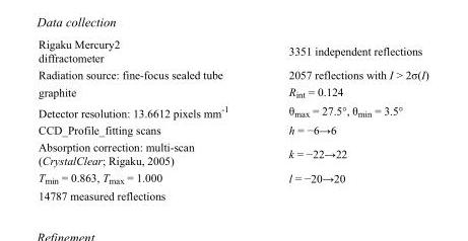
<table><tbody><tr><td>Rigaku Mercury2 diffractometer</td><td>3351 independent reflections</td></tr><tr><td>Radiation source: fine-focus sealed tube</td><td>2057 reflections with I &gt; 2σ(I)</td></tr><tr><td>graphite</td><td>R<sub>int</sub> = 0.124</td></tr><tr><td>Detector resolution: 13.6612 pixels mm<sup>-1</sup></td><td>θ<sub>max</sub> = 27.5°, θ<sub>min</sub> = 3.5°</td></tr><tr><td>CCD_Profile_fitting scans</td><td>h = −6→6</td></tr><tr><td>Absorption correction: multi-scan (CrystalClear; Rigaku, 2005)</td><td>k = −22→22</td></tr><tr><td>T<sub>min</sub> = 0.863, T<sub>max</sub> = 1.000</td><td>l = −20→20</td></tr><tr><td>14787 measured reflections</td><td></td></tr></tbody></table>